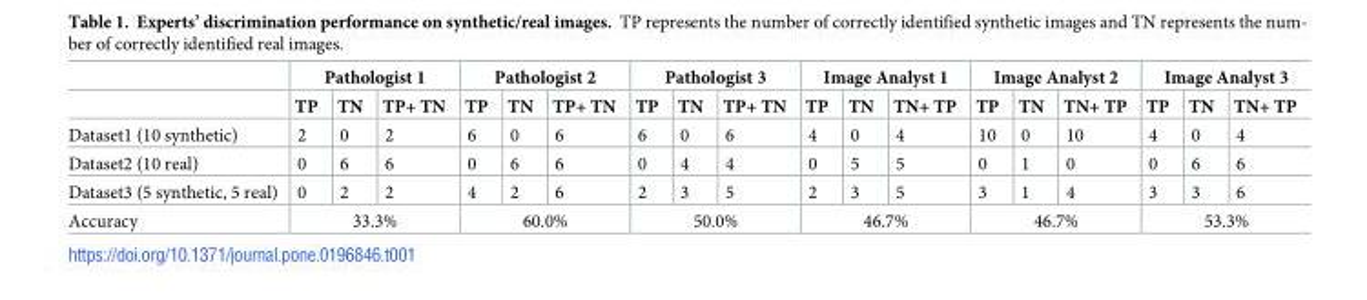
<table><thead><tr><td rowspan="2"></td><td colspan="3">Pathologist 1</td><td colspan="3">Pathologist 2</td><td colspan="3">Pathologist 3</td><td colspan="3">Image Analyst 1</td><td colspan="3">Image Analyst 2</td><td colspan="3">Image Analyst 3</td></tr><tr><td>TP</td><td>TN</td><td>TP+ TN</td><td>TP</td><td>TN</td><td>TP+ TN</td><td>TP</td><td>TN</td><td>TP+ TN</td><td>TP</td><td>TN</td><td>TN+ TP</td><td>TP</td><td>TN</td><td>TN+ TP</td><td>TP</td><td>TN</td><td>TN+ TP</td></tr></thead><tbody><tr><td>Dataset1 (10 synthetic)</td><td>2</td><td>0</td><td>2</td><td>6</td><td>0</td><td>6</td><td>6</td><td>0</td><td>6</td><td>4</td><td>0</td><td>4</td><td>10</td><td>0</td><td>10</td><td>4</td><td>0</td><td>4</td></tr><tr><td>Dataset2 (10 real)</td><td>0</td><td>6</td><td>6</td><td>0</td><td>6</td><td>6</td><td>0</td><td>4</td><td>4</td><td>0</td><td>5</td><td>5</td><td>0</td><td>1</td><td>0</td><td>0</td><td>6</td><td>6</td></tr><tr><td>Dataset3 (5 synthetic, 5 real)</td><td>0</td><td>2</td><td>2</td><td>4</td><td>2</td><td>6</td><td>2</td><td>3</td><td>5</td><td>2</td><td>3</td><td>5</td><td>3</td><td>1</td><td>4</td><td>3</td><td>3</td><td>6</td></tr><tr><td>Accuracy</td><td colspan="3">33.3%</td><td colspan="3">60.0%</td><td colspan="3">50.0%</td><td colspan="3">46.7%</td><td colspan="3">46.7%</td><td colspan="3">53.3%</td></tr></tbody></table>